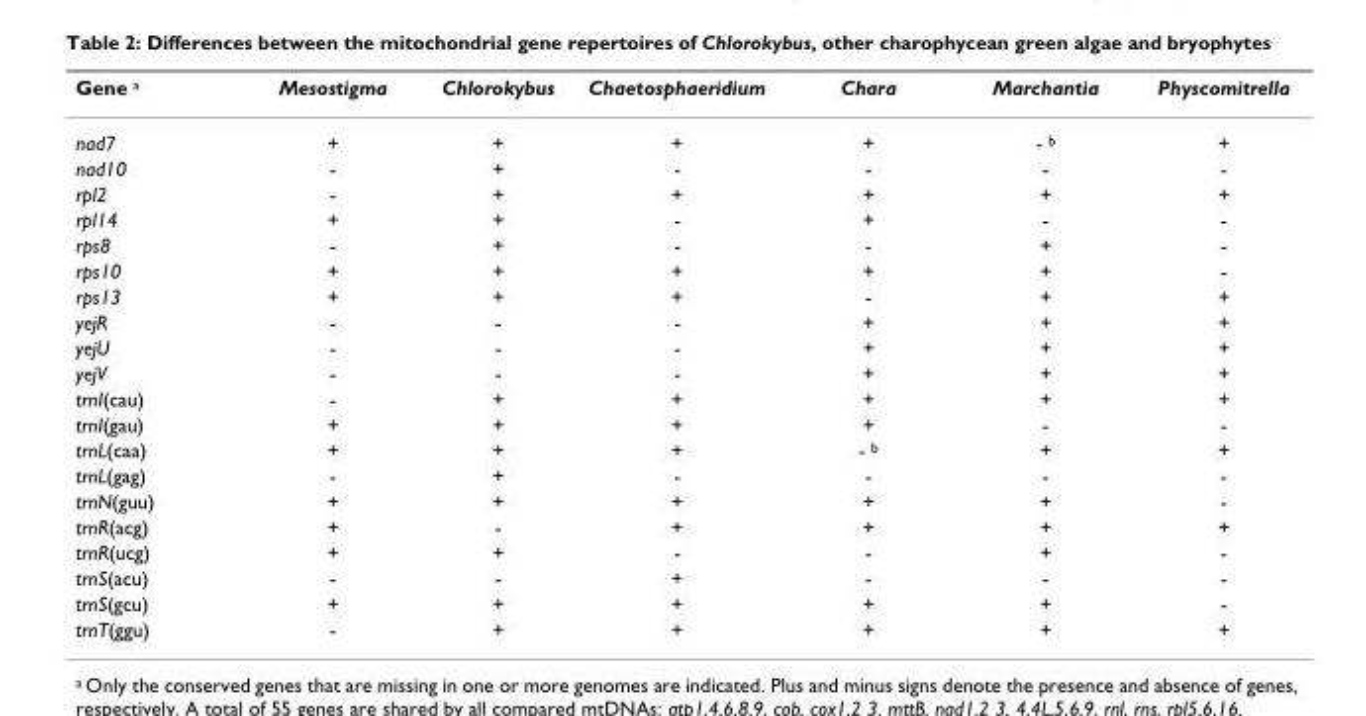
<table><thead><tr><td>Gene a</td><td>Mesostigma</td><td>Chlorokybus</td><td>Chaetosphaeridium</td><td>Chara</td><td>Marchantia</td><td>Physcomitrella</td></tr></thead><tbody><tr><td>nad7</td><td>+</td><td>+</td><td>+</td><td>+</td><td>- b</td><td>+</td></tr><tr><td>nad10</td><td>-</td><td>+</td><td>-</td><td>-</td><td>-</td><td>-</td></tr><tr><td>rpl2</td><td>-</td><td>+</td><td>+</td><td>+</td><td>+</td><td>+</td></tr><tr><td>rpl14</td><td>+</td><td>+</td><td>-</td><td>+</td><td>-</td><td>-</td></tr><tr><td>rps8</td><td>-</td><td>+</td><td>-</td><td>-</td><td>+</td><td>-</td></tr><tr><td>rps10</td><td>+</td><td>+</td><td>+</td><td>+</td><td>+</td><td>-</td></tr><tr><td>rps13</td><td>+</td><td>+</td><td>+</td><td>-</td><td>+</td><td>+</td></tr><tr><td>yejR</td><td>-</td><td>-</td><td>-</td><td>+</td><td>+</td><td>+</td></tr><tr><td>yejU</td><td>-</td><td>-</td><td>-</td><td>+</td><td>+</td><td>+</td></tr><tr><td>yejV</td><td>-</td><td>-</td><td>-</td><td>+</td><td>+</td><td>+</td></tr><tr><td>trnI(cau)</td><td>-</td><td>+</td><td>+</td><td>+</td><td>+</td><td>+</td></tr><tr><td>trnI(gau)</td><td>+</td><td>+</td><td>+</td><td>+</td><td>-</td><td>-</td></tr><tr><td>trnL(caa)</td><td>+</td><td>+</td><td>+</td><td>- b</td><td>+</td><td>+</td></tr><tr><td>trnL(gag)</td><td>-</td><td>+</td><td>-</td><td>-</td><td>-</td><td>-</td></tr><tr><td>trnN(guu)</td><td>+</td><td>+</td><td>+</td><td>+</td><td>+</td><td>-</td></tr><tr><td>trnR(acg)</td><td>+</td><td>-</td><td>+</td><td>+</td><td>+</td><td>+</td></tr><tr><td>trnR(ucg)</td><td>+</td><td>+</td><td>-</td><td>-</td><td>+</td><td>-</td></tr><tr><td>trnS(acu)</td><td>-</td><td>-</td><td>+</td><td>-</td><td>-</td><td>-</td></tr><tr><td>trnS(gcu)</td><td>+</td><td>+</td><td>+</td><td>+</td><td>+</td><td>-</td></tr><tr><td>trnT(ggu)</td><td>-</td><td>+</td><td>+</td><td>+</td><td>+</td><td>+</td></tr></tbody></table>